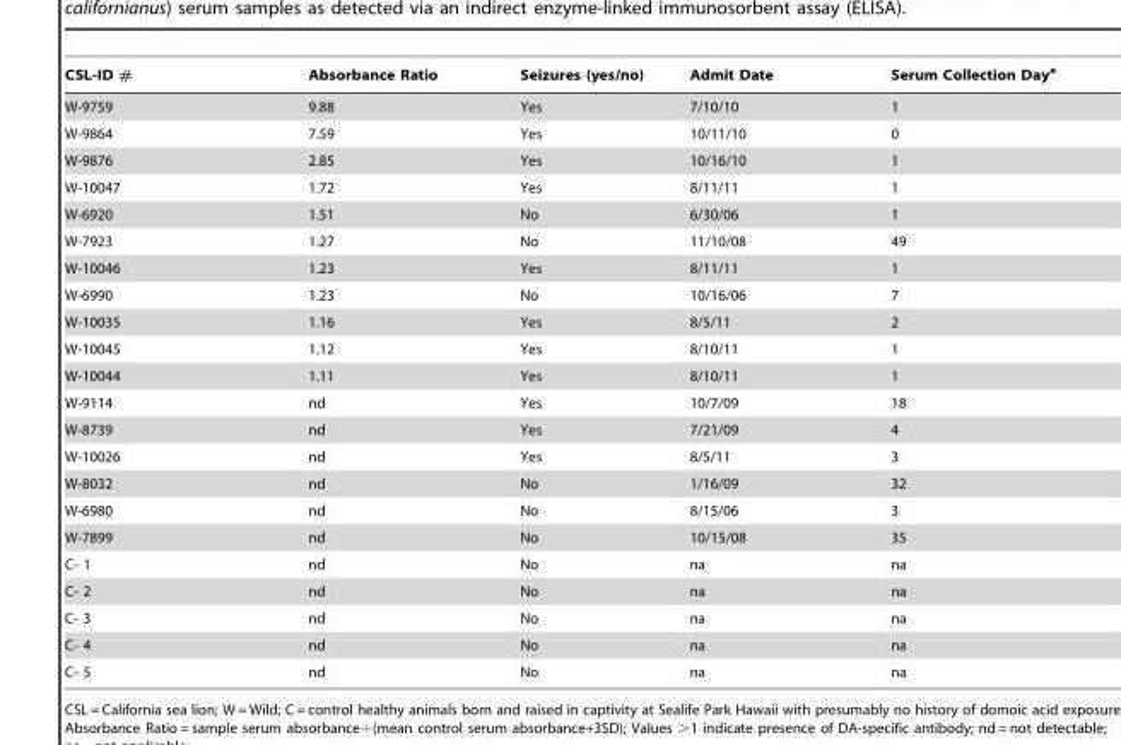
<table><thead><tr><td>CSL-ID #</td><td>Absorbance Ratio</td><td>Seizures (yes/no)</td><td>Admit Date</td><td>Serum Collection Day<sup>a</sup></td></tr></thead><tbody><tr><td>W-9759</td><td>9.88</td><td>Yes</td><td>7/10/10</td><td>1</td></tr><tr><td>W-9864</td><td>7.59</td><td>Yes</td><td>10/11/10</td><td>0</td></tr><tr><td>W-9876</td><td>2.85</td><td>Yes</td><td>10/16/10</td><td>1</td></tr><tr><td>W-10047</td><td>1.72</td><td>Yes</td><td>8/11/11</td><td>1</td></tr><tr><td>W-6920</td><td>1.51</td><td>No</td><td>6/30/06</td><td>1</td></tr><tr><td>W-7923</td><td>1.27</td><td>No</td><td>11/10/08</td><td>49</td></tr><tr><td>W-10046</td><td>1.23</td><td>Yes</td><td>8/11/11</td><td>1</td></tr><tr><td>W-6990</td><td>1.23</td><td>No</td><td>10/16/06</td><td>7</td></tr><tr><td>W-10035</td><td>1.16</td><td>Yes</td><td>8/5/11</td><td>2</td></tr><tr><td>W-10045</td><td>1.12</td><td>Yes</td><td>8/10/11</td><td>1</td></tr><tr><td>W-10044</td><td>1.11</td><td>Yes</td><td>8/10/11</td><td>1</td></tr><tr><td>W-9114</td><td>nd</td><td>Yes</td><td>10/7/09</td><td>18</td></tr><tr><td>W-8739</td><td>nd</td><td>Yes</td><td>7/21/09</td><td>4</td></tr><tr><td>W-10026</td><td>nd</td><td>Yes</td><td>8/5/11</td><td>3</td></tr><tr><td>W-8032</td><td>nd</td><td>No</td><td>1/16/09</td><td>32</td></tr><tr><td>W-6980</td><td>nd</td><td>No</td><td>8/15/06</td><td>3</td></tr><tr><td>W-7899</td><td>nd</td><td>No</td><td>10/15/08</td><td>35</td></tr><tr><td>C- 1</td><td>nd</td><td>No</td><td>na</td><td>na</td></tr><tr><td>C- 2</td><td>nd</td><td>No</td><td>na</td><td>na</td></tr><tr><td>C- 3</td><td>nd</td><td>No</td><td>na</td><td>na</td></tr><tr><td>C- 4</td><td>nd</td><td>No</td><td>na</td><td>na</td></tr><tr><td>C- 5</td><td>nd</td><td>No</td><td>na</td><td>na</td></tr></tbody></table>